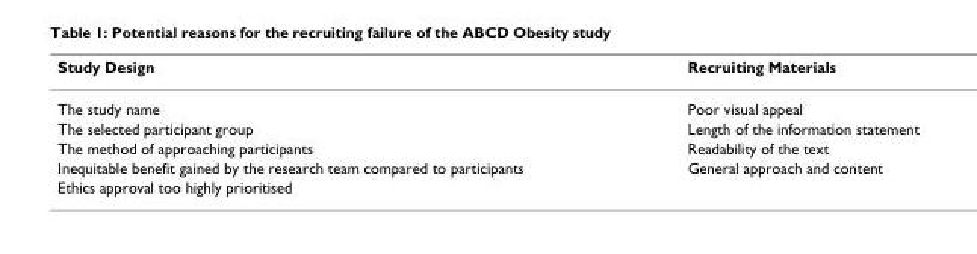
<table><thead><tr><td>Study Design</td><td>Recruiting Materials</td></tr></thead><tbody><tr><td>The study name</td><td>Poor visual appeal</td></tr><tr><td>The selected participant group</td><td>Length of the information statement</td></tr><tr><td>The method of approaching participants</td><td>Readability of the text</td></tr><tr><td>Inequitable benefit gained by the research team compared to participants</td><td>General approach and content</td></tr><tr><td>Ethics approval too highly prioritised</td><td></td></tr></tbody></table>